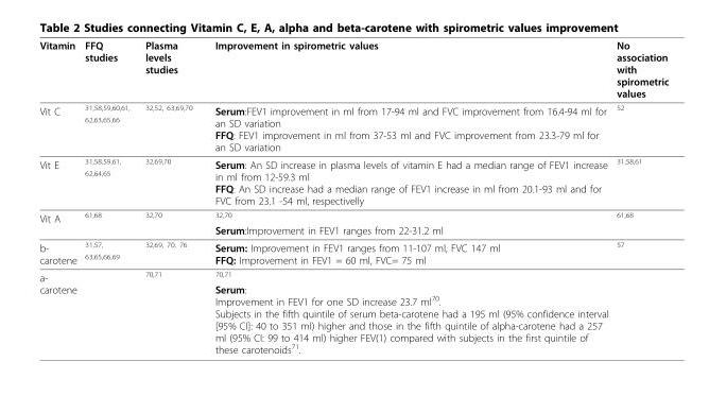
<table><thead><tr><td>Vitamin</td><td>FFQ studies</td><td>Plasma levels studies</td><td>Improvement in spirometric values</td><td>No association with spirometric values</td></tr></thead><tbody><tr><td>Vit C</td><td><sup>31,58,59,60,61, 62,63,65,66</sup></td><td><sup>32,52, 63,69,70</sup></td><td>Serum:FEV1 improvement in ml from 17-94 ml and FVC improvement from 16.4-94 ml for an SD variation FFQ: FEV1 improvement in ml from 37-53 ml and FVC improvement from 23.3-79 ml for an SD variation</td><td><sup>52</sup></td></tr><tr><td>Vit E</td><td><sup>31,58,59,61, 62,64,65</sup></td><td><sup>32,69,70</sup></td><td>Serum: An SD increase in plasma levels of vitamin E had a median range of FEV1 increase in ml from 12-59.3 ml FFQ: An SD increase had a median range of FEV1 increase in ml from 20.1-93 ml and for FVC from 23.1 -54 ml, respectivelly</td><td><sup>31,58,61</sup></td></tr><tr><td>Vit A</td><td><sup>61,68</sup></td><td><sup>32,70</sup></td><td><sup>32,70</sup> Serum:Improvement in FEV1 ranges from 22-31.2 ml</td><td><sup>61,68</sup></td></tr><tr><td>b- carotene</td><td><sup>31,57, 63,65,66,69</sup></td><td><sup>32,69, 70, 76</sup></td><td>Serum: Improvement in FEV1 ranges from 11-107 ml, FVC 147 ml FFQ: Improvement in FEV1 = 60 ml, FVC= 75 ml</td><td><sup>57</sup></td></tr><tr><td>a- carotene</td><td></td><td><sup>70,71</sup></td><td><sup>70,71</sup> Serum: Improvement in FEV1 for one SD increase 23.7 ml<sup>70</sup>. Subjects in the fifth quintile of serum beta-carotene had a 195 ml (95% confidence interval [95% CI]: 40 to 351 ml) higher and those in the fifth quintile of alpha-carotene had a 257 ml (95% CI: 99 to 414 ml) higher FEV(1) compared with subjects in the first quintile of these carotenoids<sup>71</sup>.</td><td></td></tr></tbody></table>